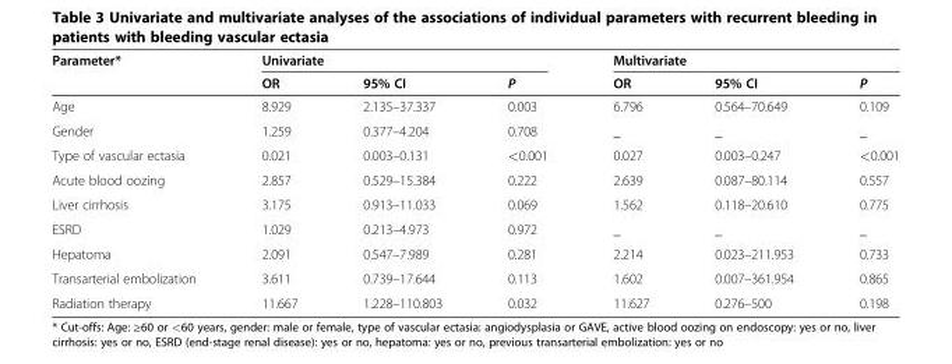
<table><thead><tr><td rowspan="2">Parameter*</td><td colspan="3">Univariate</td><td colspan="3">Multivariate</td></tr><tr><td>OR</td><td>95% CI</td><td>P</td><td>OR</td><td>95% CI</td><td>P</td></tr></thead><tbody><tr><td>Age</td><td>8.929</td><td>2.135–37.337</td><td>0.003</td><td>6.796</td><td>0.564–70.649</td><td>0.109</td></tr><tr><td>Gender</td><td>1.259</td><td>0.377–4.204</td><td>0.708</td><td>_</td><td>_</td><td>_</td></tr><tr><td>Type of vascular ectasia</td><td>0.021</td><td>0.003–0.131</td><td>&lt;0.001</td><td>0.027</td><td>0.003–0.247</td><td>&lt;0.001</td></tr><tr><td>Acute blood oozing</td><td>2.857</td><td>0.529–15.384</td><td>0.222</td><td>2.639</td><td>0.087–80.114</td><td>0.557</td></tr><tr><td>Liver cirrhosis</td><td>3.175</td><td>0.913–11.033</td><td>0.069</td><td>1.562</td><td>0.118–20.610</td><td>0.775</td></tr><tr><td>ESRD</td><td>1.029</td><td>0.213–4.973</td><td>0.972</td><td>_</td><td>_</td><td>_</td></tr><tr><td>Hepatoma</td><td>2.091</td><td>0.547–7.989</td><td>0.281</td><td>2.214</td><td>0.023–211.953</td><td>0.733</td></tr><tr><td>Transarterial embolization</td><td>3.611</td><td>0.739–17.644</td><td>0.113</td><td>1.602</td><td>0.007–361.954</td><td>0.865</td></tr><tr><td>Radiation therapy</td><td>11.667</td><td>1.228–110.803</td><td>0.032</td><td>11.627</td><td>0.276–500</td><td>0.198</td></tr></tbody></table>